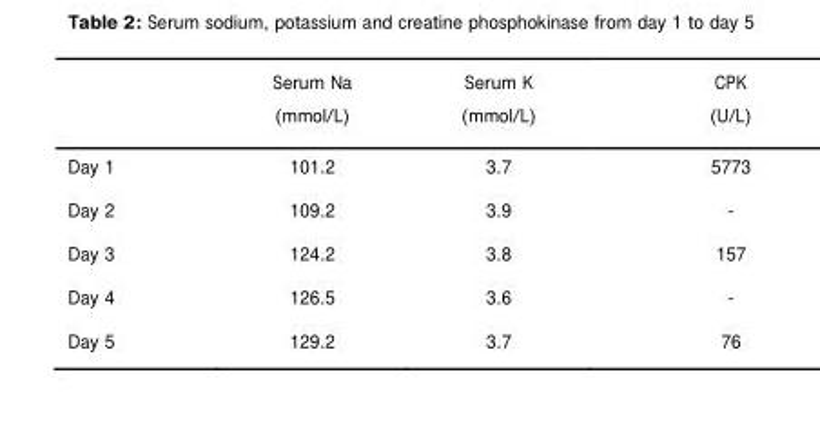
<table><thead><tr><td></td><td>Serum Na (mmol/L)</td><td>Serum K (mmol/L)</td><td>CPK (U/L)</td></tr></thead><tbody><tr><td>Day 1</td><td>101.2</td><td>3.7</td><td>5773</td></tr><tr><td>Day 2</td><td>109.2</td><td>3.9</td><td>-</td></tr><tr><td>Day 3</td><td>124.2</td><td>3.8</td><td>157</td></tr><tr><td>Day 4</td><td>126.5</td><td>3.6</td><td>-</td></tr><tr><td>Day 5</td><td>129.2</td><td>3.7</td><td>76</td></tr></tbody></table>